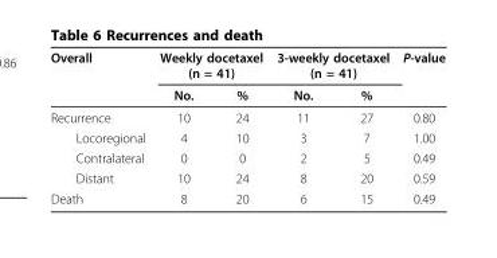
<table><thead><tr><td rowspan="2">Overall</td><td colspan="2">Weekly docetaxel (n = 41)</td><td colspan="2">3-weekly docetaxel (n = 41)</td><td rowspan="2">P-value</td></tr><tr><td>No.</td><td>%</td><td>No.</td><td>%</td></tr></thead><tbody><tr><td>Recurrence</td><td>10</td><td>24</td><td>11</td><td>27</td><td>0.80</td></tr><tr><td>Locoregional</td><td>4</td><td>10</td><td>3</td><td>7</td><td>1.00</td></tr><tr><td>Contralateral</td><td>0</td><td>0</td><td>2</td><td>5</td><td>0.49</td></tr><tr><td>Distant</td><td>10</td><td>24</td><td>8</td><td>20</td><td>0.59</td></tr><tr><td>Death</td><td>8</td><td>20</td><td>6</td><td>15</td><td>0.49</td></tr></tbody></table>